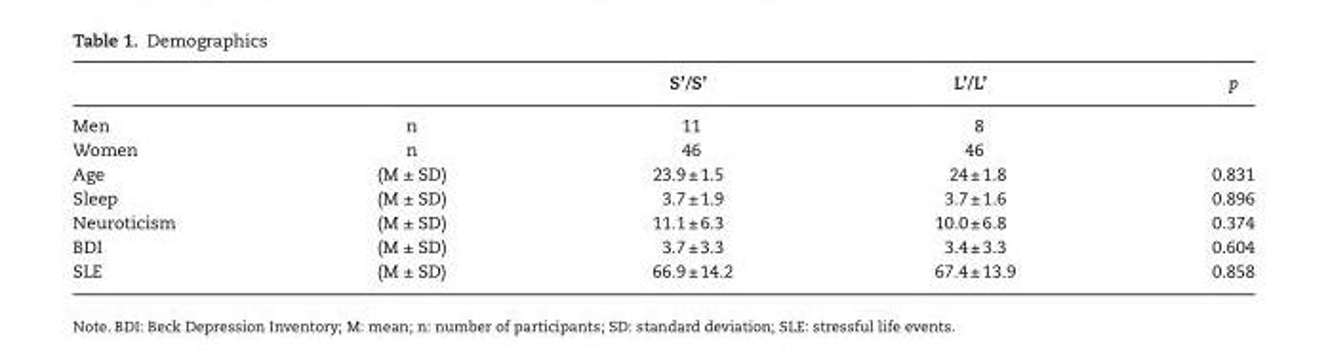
<table><thead><tr><td></td><td></td><td>S’/S’</td><td>L’/L’</td><td>p</td></tr></thead><tbody><tr><td>Men</td><td>n</td><td>11</td><td>8</td><td></td></tr><tr><td>Women</td><td>n</td><td>46</td><td>46</td><td></td></tr><tr><td>Age</td><td>(M ± SD)</td><td>23.9 ± 1.5</td><td>24 ± 1.8</td><td>0.831</td></tr><tr><td>Sleep</td><td>(M ± SD)</td><td>3.7 ± 1.9</td><td>3.7 ± 1.6</td><td>0.896</td></tr><tr><td>Neuroticism</td><td>(M ± SD)</td><td>11.1 ± 6.3</td><td>10.0 ± 6.8</td><td>0.374</td></tr><tr><td>BDI</td><td>(M ± SD)</td><td>3.7 ± 3.3</td><td>3.4 ± 3.3</td><td>0.604</td></tr><tr><td>SLE</td><td>(M ± SD)</td><td>66.9 ± 14.2</td><td>67.4 ± 13.9</td><td>0.858</td></tr></tbody></table>